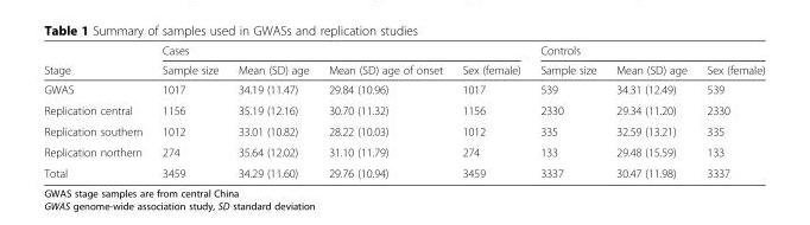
<table><thead><tr><td rowspan="2">Stage</td><td colspan="4">Cases</td><td colspan="3">Controls</td></tr><tr><td>Sample size</td><td>Mean (SD) age</td><td>Mean (SD) age of onset</td><td>Sex (female)</td><td>Sample size</td><td>Mean (SD) age</td><td>Sex (female)</td></tr></thead><tbody><tr><td>GWAS</td><td>1017</td><td>34.19 (11.47)</td><td>29.84 (10.96)</td><td>1017</td><td>539</td><td>34.31 (12.49)</td><td>539</td></tr><tr><td>Replication central</td><td>1156</td><td>35.19 (12.16)</td><td>30.70 (11.32)</td><td>1156</td><td>2330</td><td>29.34 (11.20)</td><td>2330</td></tr><tr><td>Replication southern</td><td>1012</td><td>33.01 (10.82)</td><td>28.22 (10.03)</td><td>1012</td><td>335</td><td>32.59 (13.21)</td><td>335</td></tr><tr><td>Replication northern</td><td>274</td><td>35.64 (12.02)</td><td>31.10 (11.79)</td><td>274</td><td>133</td><td>29.48 (15.59)</td><td>133</td></tr><tr><td>Total</td><td>3459</td><td>34.29 (11.60)</td><td>29.76 (10.94)</td><td>3459</td><td>3337</td><td>30.47 (11.98)</td><td>3337</td></tr></tbody></table>